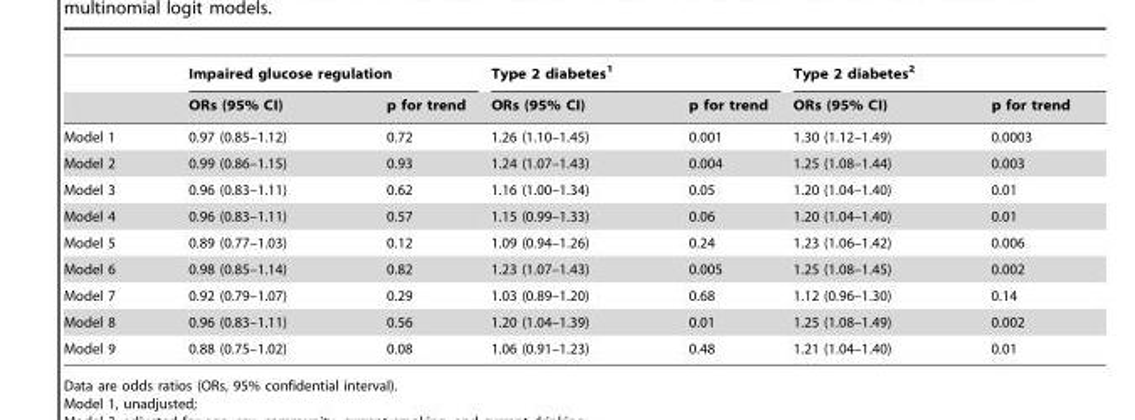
<table><thead><tr><td rowspan="2"></td><td colspan="2">Impaired glucose regulation</td><td colspan="2">Type 2 diabetes1</td><td colspan="2">Type 2 diabetes2</td></tr><tr><td>ORs (95% CI)</td><td>p for trend</td><td>ORs (95% CI)</td><td>p for trend</td><td>ORs (95% CI)</td><td>p for trend</td></tr></thead><tbody><tr><td>Model 1</td><td>0.97 (0.85–1.12)</td><td>0.72</td><td>1.26 (1.10–1.45)</td><td>0.001</td><td>1.30 (1.12–1.49)</td><td>0.0003</td></tr><tr><td>Model 2</td><td>0.99 (0.86–1.15)</td><td>0.93</td><td>1.24 (1.07–1.43)</td><td>0.004</td><td>1.25 (1.08–1.44)</td><td>0.003</td></tr><tr><td>Model 3</td><td>0.96 (0.83–1.11)</td><td>0.62</td><td>1.16 (1.00–1.34)</td><td>0.05</td><td>1.20 (1.04–1.40)</td><td>0.01</td></tr><tr><td>Model 4</td><td>0.96 (0.83–1.11)</td><td>0.57</td><td>1.15 (0.99–1.33)</td><td>0.06</td><td>1.20 (1.04–1.40)</td><td>0.01</td></tr><tr><td>Model 5</td><td>0.89 (0.77–1.03)</td><td>0.12</td><td>1.09 (0.94–1.26)</td><td>0.24</td><td>1.23 (1.06–1.42)</td><td>0.006</td></tr><tr><td>Model 6</td><td>0.98 (0.85–1.14)</td><td>0.82</td><td>1.23 (1.07–1.43)</td><td>0.005</td><td>1.25 (1.08–1.45)</td><td>0.002</td></tr><tr><td>Model 7</td><td>0.92 (0.79–1.07)</td><td>0.29</td><td>1.03 (0.89–1.20)</td><td>0.68</td><td>1.12 (0.96–1.30)</td><td>0.14</td></tr><tr><td>Model 8</td><td>0.96 (0.83–1.11)</td><td>0.56</td><td>1.20 (1.04–1.39)</td><td>0.01</td><td>1.25 (1.08–1.49)</td><td>0.002</td></tr><tr><td>Model 9</td><td>0.88 (0.75–1.02)</td><td>0.08</td><td>1.06 (0.91–1.23)</td><td>0.48</td><td>1.21 (1.04–1.40)</td><td>0.01</td></tr></tbody></table>